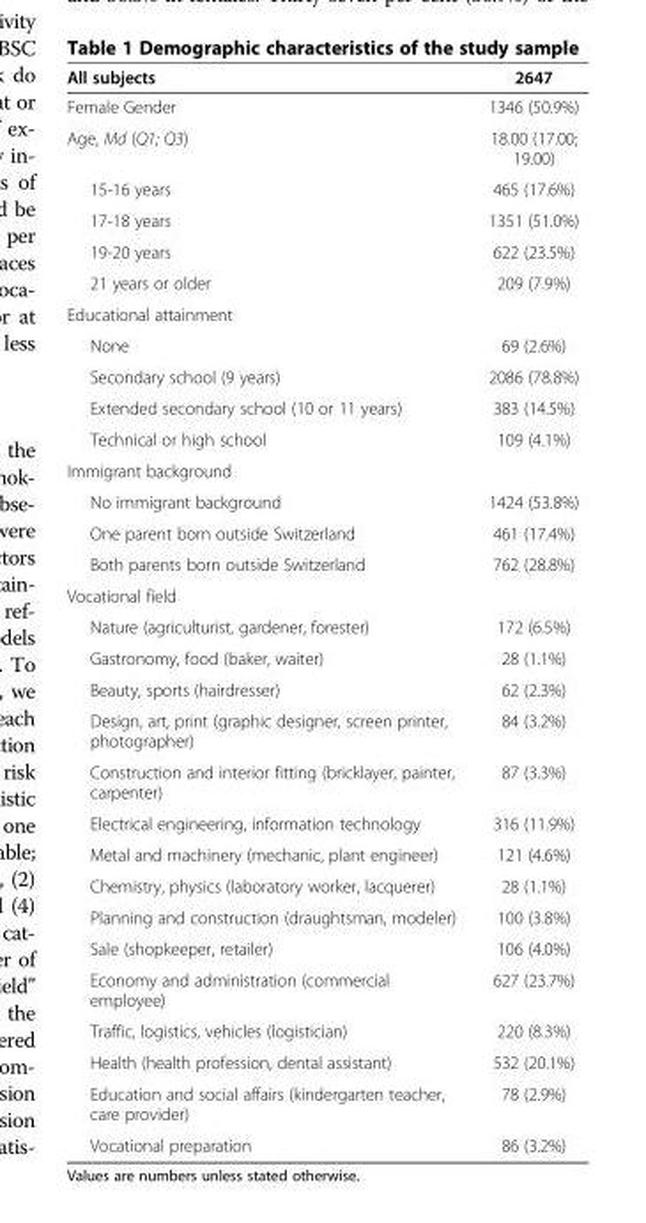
<table><thead><tr><td>All subjects</td><td>2647</td></tr></thead><tbody><tr><td>Female Gender</td><td>1346 (50.9%)</td></tr><tr><td>Age, Md (Q1; Q3)</td><td>18.00 (17.00; 19.00)</td></tr><tr><td>15-16 years</td><td>465 (17.6%)</td></tr><tr><td>17-18 years</td><td>1351 (51.0%)</td></tr><tr><td>19-20 years</td><td>622 (23.5%)</td></tr><tr><td>21 years or older</td><td>209 (7.9%)</td></tr><tr><td colspan="2">Educational attainment</td></tr><tr><td>None</td><td>69 (2.6%)</td></tr><tr><td>Secondary school (9 years)</td><td>2086 (78.8%)</td></tr><tr><td>Extended secondary school (10 or 11 years)</td><td>383 (14.5%)</td></tr><tr><td>Technical or high school</td><td>109 (4.1%)</td></tr><tr><td colspan="2">Immigrant background</td></tr><tr><td>No immigrant background</td><td>1424 (53.8%)</td></tr><tr><td>One parent born outside Switzerland</td><td>461 (17.4%)</td></tr><tr><td>Both parents born outside Switzerland</td><td>762 (28.8%)</td></tr><tr><td colspan="2">Vocational field</td></tr><tr><td>Nature (agriculturist, gardener, forester)</td><td>172 (6.5%)</td></tr><tr><td>Gastronomy, food (baker, waiter)</td><td>28 (1.1%)</td></tr><tr><td>Beauty, sports (hairdresser)</td><td>62 (2.3%)</td></tr><tr><td>Design, art, print (graphic designer, screen printer, photographer)</td><td>84 (3.2%)</td></tr><tr><td>Construction and interior fitting (bricklayer, painter, carpenter)</td><td>87 (3.3%)</td></tr><tr><td>Electrical engineering, information technology</td><td>316 (11.9%)</td></tr><tr><td>Metal and machinery (mechanic, plant engineer)</td><td>121 (4.6%)</td></tr><tr><td>Chemistry, physics (laboratory worker, lacquerer)</td><td>28 (1.1%)</td></tr><tr><td>Planning and construction (draughtsman, modeler)</td><td>100 (3.8%)</td></tr><tr><td>Sale (shopkeeper, retailer)</td><td>106 (4.0%)</td></tr><tr><td>Economy and administration (commercial employee)</td><td>627 (23.7%)</td></tr><tr><td>Traffic, logistics, vehicles (logistician)</td><td>220 (8.3%)</td></tr><tr><td>Health (health profession, dental assistant)</td><td>532 (20.1%)</td></tr><tr><td>Education and social affairs (kindergarten teacher, care provider)</td><td>78 (2.9%)</td></tr><tr><td>Vocational preparation</td><td>86 (3.2%)</td></tr></tbody></table>